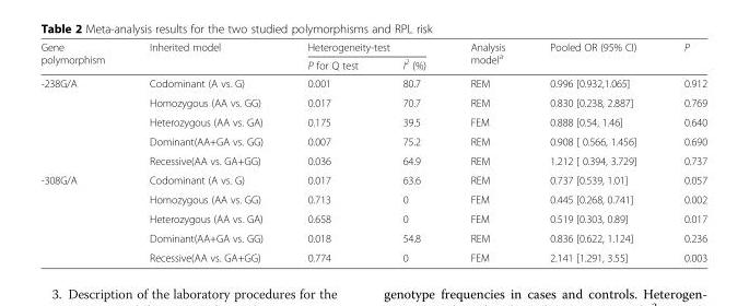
<table><thead><tr><td rowspan="2">Gene polymorphism</td><td rowspan="2">Inherited model</td><td colspan="2">Heterogeneity-test</td><td rowspan="2">Analysis model<sup>a</sup></td><td rowspan="2">Pooled OR (95% CI)</td><td rowspan="2">P</td></tr><tr><td>P for Q test</td><td>I<sup>2</sup> (%)</td></tr></thead><tbody><tr><td rowspan="5">-238G/A</td><td>Codominant (A vs. G)</td><td>0.001</td><td>80.7</td><td>REM</td><td>0.996 [0.932,1.065]</td><td>0.912</td></tr><tr><td>Homozygous (AA vs. GG)</td><td>0.017</td><td>70.7</td><td>REM</td><td>0.830 [0.238, 2.887]</td><td>0.769</td></tr><tr><td>Heterozygous (AA vs. GA)</td><td>0.175</td><td>39.5</td><td>FEM</td><td>0.888 [0.54, 1.46]</td><td>0.640</td></tr><tr><td>Dominant(AA+GA vs. GG)</td><td>0.007</td><td>75.2</td><td>REM</td><td>0.908 [ 0.566, 1.456]</td><td>0.690</td></tr><tr><td>Recessive(AA vs. GA+GG)</td><td>0.036</td><td>64.9</td><td>REM</td><td>1.212 [ 0.394, 3.729]</td><td>0.737</td></tr><tr><td rowspan="5">-308G/A</td><td>Codominant (A vs. G)</td><td>0.017</td><td>63.6</td><td>REM</td><td>0.737 [0.539, 1.01]</td><td>0.057</td></tr><tr><td>Homozygous (AA vs. GG)</td><td>0.713</td><td>0</td><td>FEM</td><td>0.445 [0.268, 0.741]</td><td>0.002</td></tr><tr><td>Heterozygous (AA vs. GA)</td><td>0.658</td><td>0</td><td>FEM</td><td>0.519 [0.303, 0.89]</td><td>0.017</td></tr><tr><td>Dominant(AA+GA vs. GG)</td><td>0.018</td><td>54.8</td><td>REM</td><td>0.836 [0.622, 1.124]</td><td>0.236</td></tr><tr><td>Recessive(AA vs. GA+GG)</td><td>0.774</td><td>0</td><td>FEM</td><td>2.141 [1.291, 3.55]</td><td>0.003</td></tr></tbody></table>